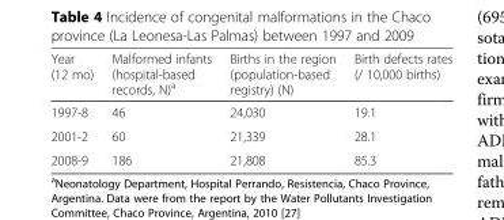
<table><thead><tr><td>Year (12 mo)</td><td>Malformed infants (hospital-based records, N)<sup>a</sup></td><td>Births in the region (population-based registry) (N)</td><td>Birth defects rates (/ 10,000 births)</td></tr></thead><tbody><tr><td>1997-8</td><td>46</td><td>24,030</td><td>19.1</td></tr><tr><td>2001-2</td><td>60</td><td>21,339</td><td>28.1</td></tr><tr><td>2008-9</td><td>186</td><td>21,808</td><td>85.3</td></tr></tbody></table>